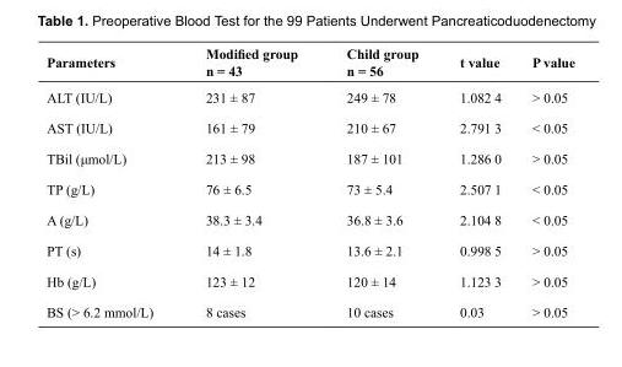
<table><thead><tr><td>Parameters</td><td>Modified group n = 43</td><td>Child group n = 56</td><td>t value</td><td>P value</td></tr></thead><tbody><tr><td>ALT (IU/L)</td><td>231 ± 87</td><td>249 ± 78</td><td>1.082 4</td><td>&gt; 0.05</td></tr><tr><td>AST (IU/L)</td><td>161 ± 79</td><td>210 ± 67</td><td>2.791 3</td><td>&lt; 0.05</td></tr><tr><td>TBil (μmol/L)</td><td>213 ± 98</td><td>187 ± 101</td><td>1.286 0</td><td>&gt; 0.05</td></tr><tr><td>TP (g/L)</td><td>76 ± 6.5</td><td>73 ± 5.4</td><td>2.507 1</td><td>&lt; 0.05</td></tr><tr><td>A (g/L)</td><td>38.3 ± 3.4</td><td>36.8 ± 3.6</td><td>2.104 8</td><td>&lt; 0.05</td></tr><tr><td>PT (s)</td><td>14 ± 1.8</td><td>13.6 ± 2.1</td><td>0.998 5</td><td>&gt; 0.05</td></tr><tr><td>Hb (g/L)</td><td>123 ± 12</td><td>120 ± 14</td><td>1.123 3</td><td>&gt; 0.05</td></tr><tr><td>BS (&gt; 6.2 mmol/L)</td><td>8 cases</td><td>10 cases</td><td>0.03</td><td>&gt; 0.05</td></tr></tbody></table>